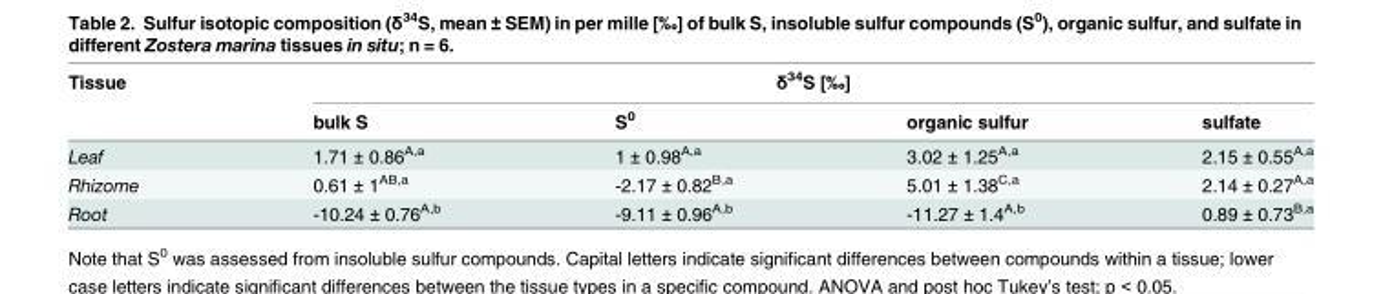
<table><thead><tr><td rowspan="2">Tissue</td><td colspan="4">δ<sup>34</sup>S [‰]</td></tr><tr><td>bulk S</td><td>S<sup>0</sup></td><td>organic sulfur</td><td>sulfate</td></tr></thead><tbody><tr><td>Leaf</td><td>1.71 ± 0.86<sup>A,a</sup></td><td>1 ± 0.98<sup>A,a</sup></td><td>3.02 ± 1.25<sup>A,a</sup></td><td>2.15 ± 0.55<sup>A,a</sup></td></tr><tr><td>Rhizome</td><td>0.61 ± 1<sup>AB,a</sup></td><td>-2.17 ± 0.82<sup>B,a</sup></td><td>5.01 ± 1.38<sup>C,a</sup></td><td>2.14 ± 0.27<sup>A,a</sup></td></tr><tr><td>Root</td><td>-10.24 ± 0.76<sup>A,b</sup></td><td>-9.11 ± 0.96<sup>A,b</sup></td><td>-11.27 ± 1.4<sup>A,b</sup></td><td>0.89 ± 0.73<sup>B,a</sup></td></tr></tbody></table>